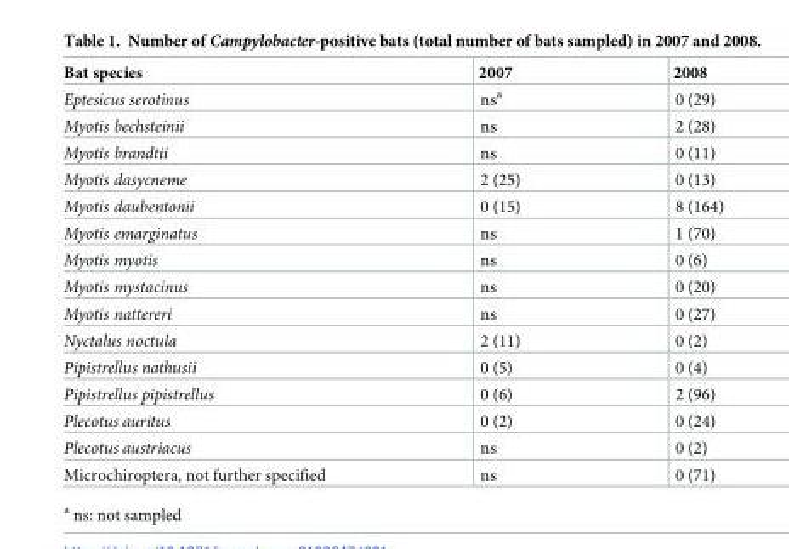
<table><thead><tr><td>Bat species</td><td>2007</td><td>2008</td></tr></thead><tbody><tr><td>Eptesicus serotinus</td><td>ns<sup>a</sup></td><td>0 (29)</td></tr><tr><td>Myotis bechsteinii</td><td>ns</td><td>2 (28)</td></tr><tr><td>Myotis brandtii</td><td>ns</td><td>0 (11)</td></tr><tr><td>Myotis dasycneme</td><td>2 (25)</td><td>0 (13)</td></tr><tr><td>Myotis daubentonii</td><td>0 (15)</td><td>8 (164)</td></tr><tr><td>Myotis emarginatus</td><td>ns</td><td>1 (70)</td></tr><tr><td>Myotis myotis</td><td>ns</td><td>0 (6)</td></tr><tr><td>Myotis mystacinus</td><td>ns</td><td>0 (20)</td></tr><tr><td>Myotis nattereri</td><td>ns</td><td>0 (27)</td></tr><tr><td>Nyctalus noctula</td><td>2 (11)</td><td>0 (2)</td></tr><tr><td>Pipistrellus nathusii</td><td>0 (5)</td><td>0 (4)</td></tr><tr><td>Pipistrellus pipistrellus</td><td>0 (6)</td><td>2 (96)</td></tr><tr><td>Plecotus auritus</td><td>0 (2)</td><td>0 (24)</td></tr><tr><td>Plecotus austriacus</td><td>ns</td><td>0 (2)</td></tr><tr><td>Microchiroptera, not further specified</td><td>ns</td><td>0 (71)</td></tr></tbody></table>